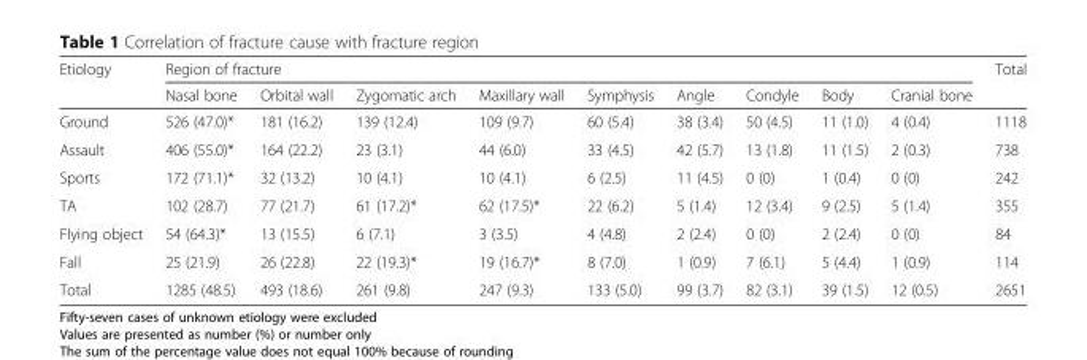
<table><thead><tr><td rowspan="2">Etiology</td><td colspan="9">Region of fracture</td><td rowspan="2">Total</td></tr><tr><td>Nasal bone</td><td>Orbital wall</td><td>Zygomatic arch</td><td>Maxillary wall</td><td>Symphysis</td><td>Angle</td><td>Condyle</td><td>Body</td><td>Cranial bone</td></tr></thead><tbody><tr><td>Ground</td><td>526 (47.0)*</td><td>181 (16.2)</td><td>139 (12.4)</td><td>109 (9.7)</td><td>60 (5.4)</td><td>38 (3.4)</td><td>50 (4.5)</td><td>11 (1.0)</td><td>4 (0.4)</td><td>1118</td></tr><tr><td>Assault</td><td>406 (55.0)*</td><td>164 (22.2)</td><td>23 (3.1)</td><td>44 (6.0)</td><td>33 (4.5)</td><td>42 (5.7)</td><td>13 (1.8)</td><td>11 (1.5)</td><td>2 (0.3)</td><td>738</td></tr><tr><td>Sports</td><td>172 (71.1)*</td><td>32 (13.2)</td><td>10 (4.1)</td><td>10 (4.1)</td><td>6 (2.5)</td><td>11 (4.5)</td><td>0 (0)</td><td>1 (0.4)</td><td>0 (0)</td><td>242</td></tr><tr><td>TA</td><td>102 (28.7)</td><td>77 (21.7)</td><td>61 (17.2)*</td><td>62 (17.5)*</td><td>22 (6.2)</td><td>5 (1.4)</td><td>12 (3.4)</td><td>9 (2.5)</td><td>5 (1.4)</td><td>355</td></tr><tr><td>Flying object</td><td>54 (64.3)*</td><td>13 (15.5)</td><td>6 (7.1)</td><td>3 (3.5)</td><td>4 (4.8)</td><td>2 (2.4)</td><td>0 (0)</td><td>2 (2.4)</td><td>0 (0)</td><td>84</td></tr><tr><td>Fall</td><td>25 (21.9)</td><td>26 (22.8)</td><td>22 (19.3)*</td><td>19 (16.7)*</td><td>8 (7.0)</td><td>1 (0.9)</td><td>7 (6.1)</td><td>5 (4.4)</td><td>1 (0.9)</td><td>114</td></tr><tr><td>Total</td><td>1285 (48.5)</td><td>493 (18.6)</td><td>261 (9.8)</td><td>247 (9.3)</td><td>133 (5.0)</td><td>99 (3.7)</td><td>82 (3.1)</td><td>39 (1.5)</td><td>12 (0.5)</td><td>2651</td></tr></tbody></table>